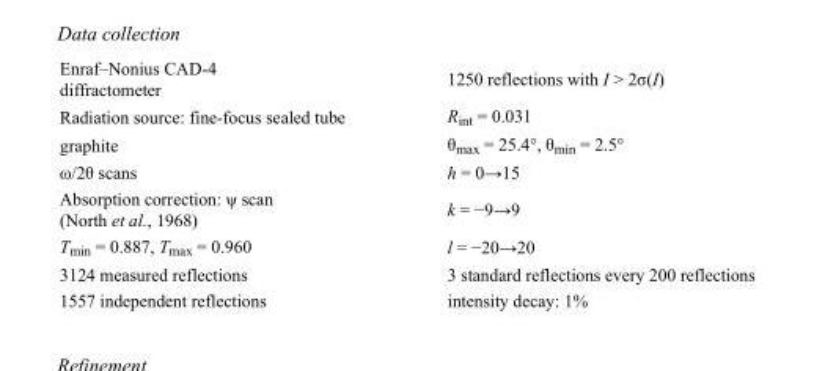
<table><tbody><tr><td>Enraf–Nonius CAD-4 diffractometer</td><td>1250 reflections with I &gt; 2σ(I)</td></tr><tr><td>Radiation source: fine-focus sealed tube</td><td>R<sub>int</sub> = 0.031</td></tr><tr><td>graphite</td><td>θ<sub>max</sub> = 25.4°, θ<sub>min</sub> = 2.5°</td></tr><tr><td>ω/2θ scans</td><td>h = 0→15</td></tr><tr><td>Absorption correction: ψ scan (North et al., 1968)</td><td>k = −9→9</td></tr><tr><td>T<sub>min</sub> = 0.887, T<sub>max</sub> = 0.960</td><td>l = −20→20</td></tr><tr><td>3124 measured reflections</td><td>3 standard reflections every 200 reflections</td></tr><tr><td>1557 independent reflections</td><td>intensity decay: 1%</td></tr></tbody></table>